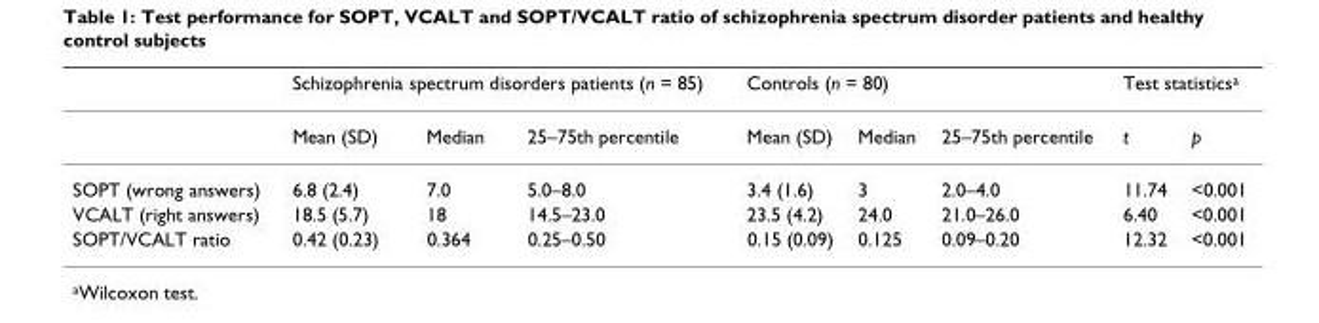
<table><thead><tr><td rowspan="2"></td><td colspan="3">Schizophrenia spectrum disorders patients (n = 85)</td><td colspan="3">Controls (n = 80)</td><td colspan="2">Test statistics<sup>a</sup></td></tr><tr><td>Mean (SD)</td><td>Median</td><td>25–75th percentile</td><td>Mean (SD)</td><td>Median</td><td>25–75th percentile</td><td>t</td><td>p</td></tr></thead><tbody><tr><td>SOPT (wrong answers)</td><td>6.8 (2.4)</td><td>7.0</td><td>5.0–8.0</td><td>3.4 (1.6)</td><td>3</td><td>2.0–4.0</td><td>11.74</td><td>&lt;0.001</td></tr><tr><td>VCALT (right answers)</td><td>18.5 (5.7)</td><td>18</td><td>14.5–23.0</td><td>23.5 (4.2)</td><td>24.0</td><td>21.0–26.0</td><td>6.40</td><td>&lt;0.001</td></tr><tr><td>SOPT/VCALT ratio</td><td>0.42 (0.23)</td><td>0.364</td><td>0.25–0.50</td><td>0.15 (0.09)</td><td>0.125</td><td>0.09–0.20</td><td>12.32</td><td>&lt;0.001</td></tr></tbody></table>